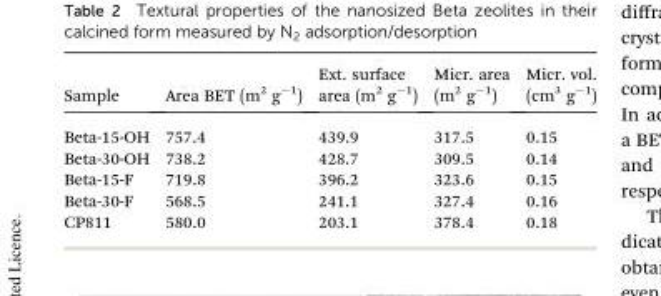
<table><thead><tr><td>Sample</td><td>Area BET (m<sup>2</sup> g<sup>–1</sup>)</td><td>Ext. surface area (m<sup>2</sup> g<sup>–1</sup>)</td><td>Micr. area (m<sup>2</sup> g<sup>–1</sup>)</td><td>Micr. vol. (cm<sup>3</sup> g<sup>–1</sup>)</td></tr></thead><tbody><tr><td>Beta-15-OH</td><td>757.4</td><td>439.9</td><td>317.5</td><td>0.15</td></tr><tr><td>Beta-30-OH</td><td>738.2</td><td>428.7</td><td>309.5</td><td>0.14</td></tr><tr><td>Beta-15-F</td><td>719.8</td><td>396.2</td><td>323.6</td><td>0.15</td></tr><tr><td>Beta-30-F</td><td>568.5</td><td>241.1</td><td>327.4</td><td>0.16</td></tr><tr><td>CP811</td><td>580.0</td><td>203.1</td><td>378.4</td><td>0.18</td></tr></tbody></table>